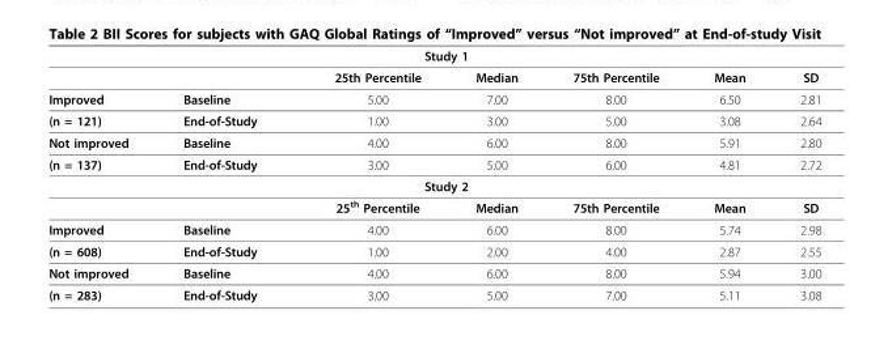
<table><thead><tr><td colspan="7">Study 1</td></tr><tr><td></td><td></td><td>25th Percentile</td><td>Median</td><td>75th Percentile</td><td>Mean</td><td>SD</td></tr></thead><tbody><tr><td>Improved</td><td>Baseline</td><td>5.00</td><td>7.00</td><td>8.00</td><td>6.50</td><td>2.81</td></tr><tr><td>(n = 121)</td><td>End-of-Study</td><td>1.00</td><td>3.00</td><td>5.00</td><td>3.08</td><td>2.64</td></tr><tr><td>Not improved</td><td>Baseline</td><td>4.00</td><td>6.00</td><td>8.00</td><td>5.91</td><td>2.80</td></tr><tr><td>(n = 137)</td><td>End-of-Study</td><td>3.00</td><td>5.00</td><td>6.00</td><td>4.81</td><td>2.72</td></tr><tr><td colspan="7">Study 2</td></tr><tr><td></td><td></td><td>25<sup>th</sup> Percentile</td><td>Median</td><td>75th Percentile</td><td>Mean</td><td>SD</td></tr><tr><td>Improved</td><td>Baseline</td><td>4.00</td><td>6.00</td><td>8.00</td><td>5.74</td><td>2.98</td></tr><tr><td>(n = 608)</td><td>End-of-Study</td><td>1.00</td><td>2.00</td><td>4.00</td><td>2.87</td><td>2.55</td></tr><tr><td>Not improved</td><td>Baseline</td><td>4.00</td><td>6.00</td><td>8.00</td><td>5.94</td><td>3.00</td></tr><tr><td>(n = 283)</td><td>End-of-Study</td><td>3.00</td><td>5.00</td><td>7.00</td><td>5.11</td><td>3.08</td></tr></tbody></table>